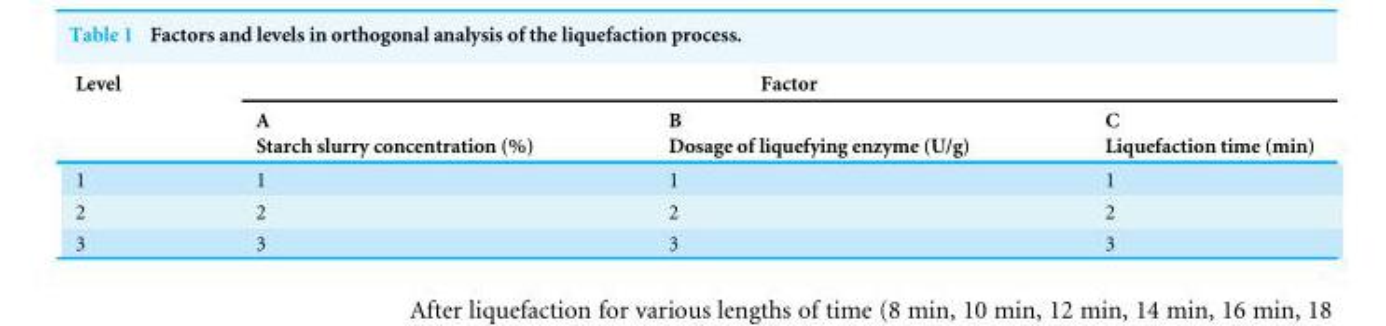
<table><thead><tr><td rowspan="3">Level</td><td colspan="3">Factor</td></tr><tr><td rowspan="2">A Starch slurry concentration (%)</td><td rowspan="2">B Dosage of liquefying enzyme (U/g)</td><td rowspan="2">C Liquefaction time (min)</td></tr><tr></tr></thead><tbody><tr><td>;1</td><td>1</td><td>1</td><td>1</td></tr><tr><td>;2</td><td>2</td><td>2</td><td>2</td></tr><tr><td>;3</td><td>3</td><td>3</td><td>3</td></tr></tbody></table>